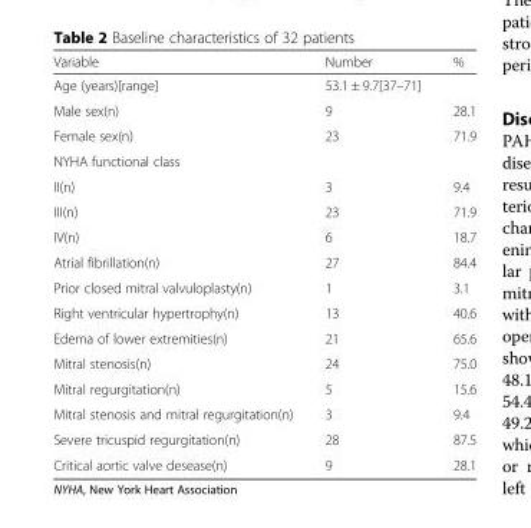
<table><thead><tr><td>Variable</td><td>Number</td><td>%</td></tr></thead><tbody><tr><td>Age (years)[range]</td><td>53.1 ± 9.7[37–71]</td><td></td></tr><tr><td>Male sex(n)</td><td>9</td><td>28.1</td></tr><tr><td>Female sex(n)</td><td>23</td><td>71.9</td></tr><tr><td colspan="3">NYHA functional class</td></tr><tr><td>II(n)</td><td>3</td><td>9.4</td></tr><tr><td>III(n)</td><td>23</td><td>71.9</td></tr><tr><td>IV(n)</td><td>6</td><td>18.7</td></tr><tr><td>Atrial fibrillation(n)</td><td>27</td><td>84.4</td></tr><tr><td>Prior closed mitral valvuloplasty(n)</td><td>1</td><td>3.1</td></tr><tr><td>Right ventricular hypertrophy(n)</td><td>13</td><td>40.6</td></tr><tr><td>Edema of lower extremities(n)</td><td>21</td><td>65.6</td></tr><tr><td>Mitral stenosis(n)</td><td>24</td><td>75.0</td></tr><tr><td>Mitral regurgitation(n)</td><td>5</td><td>15.6</td></tr><tr><td>Mitral stenosis and mitral regurgitation(n)</td><td>3</td><td>9.4</td></tr><tr><td>Severe tricuspid regurgitation(n)</td><td>28</td><td>87.5</td></tr><tr><td>Critical aortic valve desease(n)</td><td>9</td><td>28.1</td></tr></tbody></table>